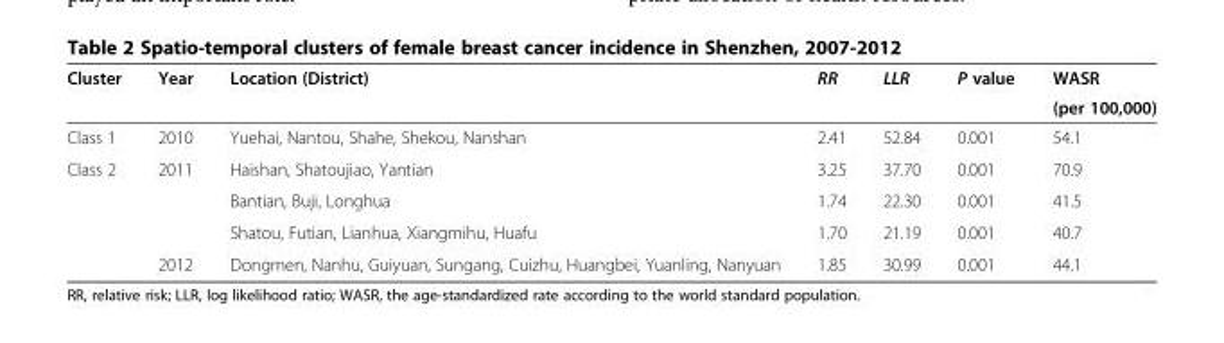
<table><thead><tr><td rowspan="2">Cluster</td><td rowspan="2">Year</td><td rowspan="2">Location (District)</td><td rowspan="2">RR</td><td rowspan="2">LLR</td><td rowspan="2">P value</td><td rowspan="2">WASR (per 100,000)</td></tr><tr></tr></thead><tbody><tr><td>Class 1</td><td>2010</td><td>Yuehai, Nantou, Shahe, Shekou, Nanshan</td><td>2.41</td><td>52.84</td><td>0.001</td><td>54.1</td></tr><tr><td rowspan="4">Class 2</td><td>2011</td><td>Haishan, Shatoujiao, Yantian</td><td>3.25</td><td>37.70</td><td>0.001</td><td>70.9</td></tr><tr><td></td><td>Bantian, Buji, Longhua</td><td>1.74</td><td>22.30</td><td>0.001</td><td>41.5</td></tr><tr><td></td><td>Shatou, Futian, Lianhua, Xiangmihu, Huafu</td><td>1.70</td><td>21.19</td><td>0.001</td><td>40.7</td></tr><tr><td>2012</td><td>Dongmen, Nanhu, Guiyuan, Sungang, Cuizhu, Huangbei, Yuanling, Nanyuan</td><td>1.85</td><td>30.99</td><td>0.001</td><td>44.1</td></tr></tbody></table>